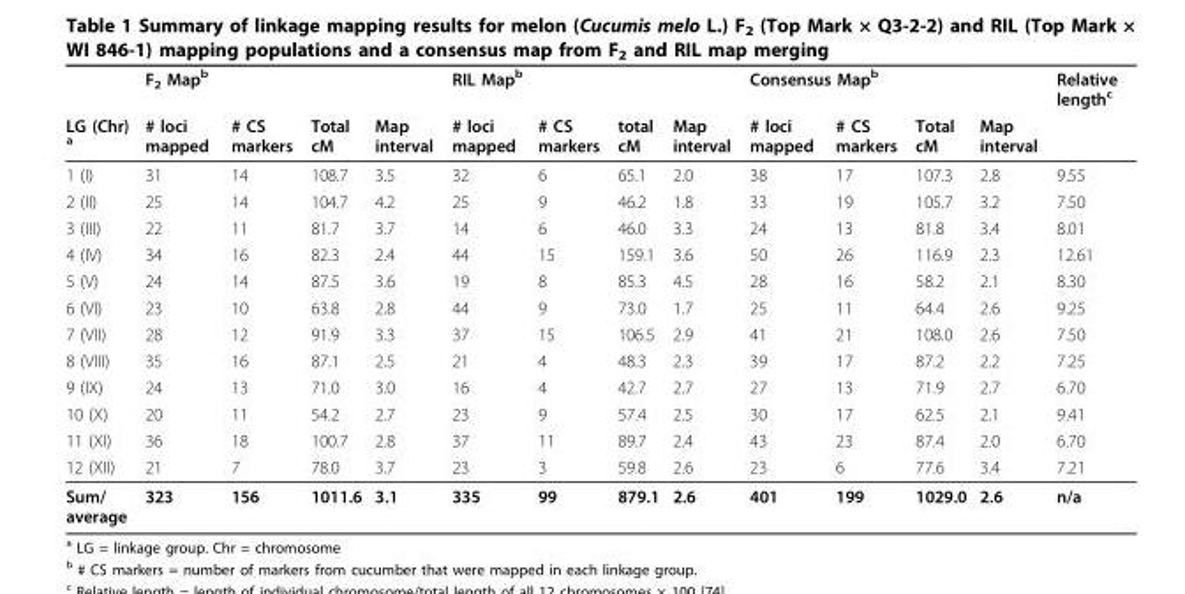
<table><thead><tr><td rowspan="2">LG (Chr) <sup>a</sup></td><td colspan="2">F<sub>2</sub> Map<sup>b</sup></td><td rowspan="2">Total cM</td><td rowspan="2">Map interval</td><td colspan="2">RIL Map<sup>b</sup></td><td rowspan="2">total cM</td><td rowspan="2">Map interval</td><td colspan="2">Consensus Map<sup>b</sup></td><td rowspan="2">Total cM</td><td rowspan="2">Map interval</td><td rowspan="2">Relative length<sup>c</sup></td></tr><tr><td># loci mapped</td><td># CS markers</td><td># loci mapped</td><td># CS markers</td><td># loci mapped</td><td># CS markers</td></tr></thead><tbody><tr><td>1 (I)</td><td>31</td><td>14</td><td>108.7</td><td>3.5</td><td>32</td><td>6</td><td>65.1</td><td>2.0</td><td>38</td><td>17</td><td>107.3</td><td>2.8</td><td>9.55</td></tr><tr><td>2 (II)</td><td>25</td><td>14</td><td>104.7</td><td>4.2</td><td>25</td><td>9</td><td>46.2</td><td>1.8</td><td>33</td><td>19</td><td>105.7</td><td>3.2</td><td>7.50</td></tr><tr><td>3 (III)</td><td>22</td><td>11</td><td>81.7</td><td>3.7</td><td>14</td><td>6</td><td>46.0</td><td>3.3</td><td>24</td><td>13</td><td>81.8</td><td>3.4</td><td>8.01</td></tr><tr><td>4 (IV)</td><td>34</td><td>16</td><td>82.3</td><td>2.4</td><td>44</td><td>15</td><td>159.1</td><td>3.6</td><td>50</td><td>26</td><td>116.9</td><td>2.3</td><td>12.61</td></tr><tr><td>5 (V)</td><td>24</td><td>14</td><td>87.5</td><td>3.6</td><td>19</td><td>8</td><td>85.3</td><td>4.5</td><td>28</td><td>16</td><td>58.2</td><td>2.1</td><td>8.30</td></tr><tr><td>6 (VI)</td><td>23</td><td>10</td><td>63.8</td><td>2.8</td><td>44</td><td>9</td><td>73.0</td><td>1.7</td><td>25</td><td>11</td><td>64.4</td><td>2.6</td><td>9.25</td></tr><tr><td>7 (VII)</td><td>28</td><td>12</td><td>91.9</td><td>3.3</td><td>37</td><td>15</td><td>106.5</td><td>2.9</td><td>41</td><td>21</td><td>108.0</td><td>2.6</td><td>7.50</td></tr><tr><td>8 (VIII)</td><td>35</td><td>16</td><td>87.1</td><td>2.5</td><td>21</td><td>4</td><td>48.3</td><td>2.3</td><td>39</td><td>17</td><td>87.2</td><td>2.2</td><td>7.25</td></tr><tr><td>9 (IX)</td><td>24</td><td>13</td><td>71.0</td><td>3.0</td><td>16</td><td>4</td><td>42.7</td><td>2.7</td><td>27</td><td>13</td><td>71.9</td><td>2.7</td><td>6.70</td></tr><tr><td>10 (X)</td><td>20</td><td>11</td><td>54.2</td><td>2.7</td><td>23</td><td>9</td><td>57.4</td><td>2.5</td><td>30</td><td>17</td><td>62.5</td><td>2.1</td><td>9.41</td></tr><tr><td>11 (XI)</td><td>36</td><td>18</td><td>100.7</td><td>2.8</td><td>37</td><td>11</td><td>89.7</td><td>2.4</td><td>43</td><td>23</td><td>87.4</td><td>2.0</td><td>6.70</td></tr><tr><td>12 (XII)</td><td>21</td><td>7</td><td>78.0</td><td>3.7</td><td>23</td><td>3</td><td>59.8</td><td>2.6</td><td>23</td><td>6</td><td>77.6</td><td>3.4</td><td>7.21</td></tr><tr><td>Sum/ average</td><td>323</td><td>156</td><td>1011.6</td><td>3.1</td><td>335</td><td>99</td><td>879.1</td><td>2.6</td><td>401</td><td>199</td><td>1029.0</td><td>2.6</td><td>n/a</td></tr></tbody></table>